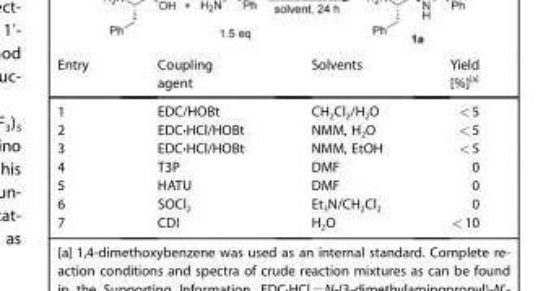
<table><thead><tr><td>Entry</td><td>Coupling agent</td><td>Solvents</td><td>Yield [%]<sup>[a]</sup></td></tr></thead><tbody><tr><td>1</td><td>EDC/HOBt</td><td>CH<sub>2</sub>Cl<sub>2</sub>/H<sub>2</sub>O</td><td>&lt;5</td></tr><tr><td>2</td><td>EDC·HCl/HOBt</td><td>NMM, H<sub>2</sub>O</td><td>&lt;5</td></tr><tr><td>3</td><td>EDC·HCl/HOBt</td><td>NMM, EtOH</td><td>&lt;5</td></tr><tr><td>4</td><td>T3P</td><td>DMF</td><td>0</td></tr><tr><td>5</td><td>HATU</td><td>DMF</td><td>0</td></tr><tr><td>6</td><td>SOCl<sub>2</sub></td><td>Et<sub>3</sub>N/CH<sub>2</sub>Cl<sub>2</sub></td><td>0</td></tr><tr><td>7</td><td>CDI</td><td>H<sub>2</sub>O</td><td>&lt;10</td></tr></tbody></table>